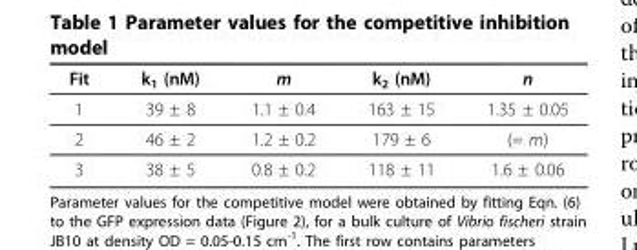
<table><thead><tr><td>Fit</td><td>k<sub>1</sub> (nM)</td><td>m</td><td>k<sub>2</sub> (nM)</td><td>n</td></tr></thead><tbody><tr><td>1</td><td>39 ± 8</td><td>1.1 ± 0.4</td><td>163 ± 15</td><td>1.35 ± 0.05</td></tr><tr><td>2</td><td>46 ± 2</td><td>1.2 ± 0.2</td><td>179 ± 6</td><td>(= m)</td></tr><tr><td>3</td><td>38 ± 5</td><td>0.8 ± 0.2</td><td>118 ± 11</td><td>1.6 ± 0.06</td></tr></tbody></table>